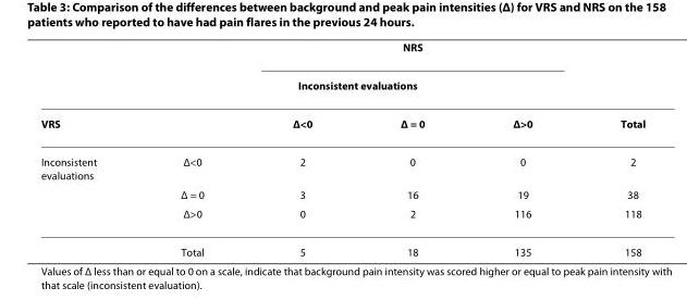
<table><thead><tr><td rowspan="3">VRS</td><td rowspan="3"></td><td colspan="3">NRS</td><td rowspan="3">Total</td></tr><tr><td colspan="2">Inconsistent evaluations</td><td rowspan="2">Δ&gt;0</td></tr><tr><td>Δ&lt;0</td><td>Δ = 0</td></tr></thead><tbody><tr><td rowspan="4">Inconsistent evaluations</td><td>Δ&lt;0</td><td>2</td><td>0</td><td>0</td><td>2</td></tr><tr><td>Δ = 0</td><td>3</td><td>16</td><td>19</td><td>38</td></tr><tr><td>Δ&gt;0</td><td>0</td><td>2</td><td>116</td><td>118</td></tr><tr><td>Total</td><td>5</td><td>18</td><td>135</td><td>158</td></tr></tbody></table>